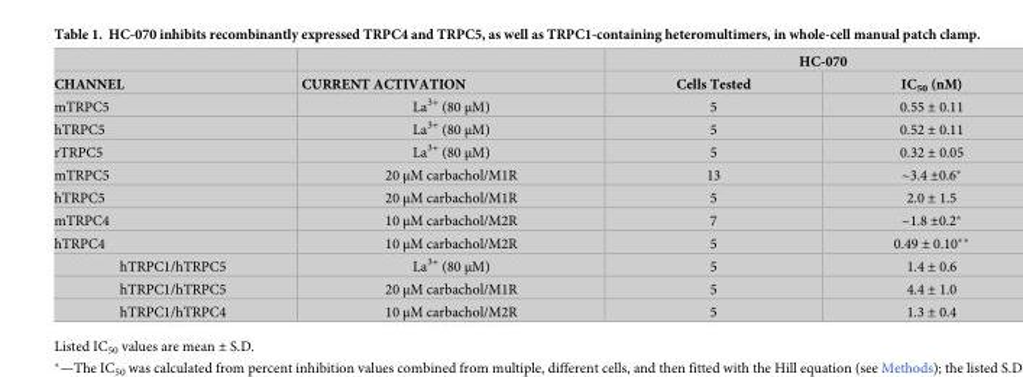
<table><thead><tr><td rowspan="2">CHANNEL</td><td rowspan="2">CURRENT ACTIVATION</td><td colspan="2">HC-070</td></tr><tr><td>Cells Tested</td><td>IC<sub>50</sub> (nM)</td></tr></thead><tbody><tr><td>mTRPC5</td><td>La<sup>3+</sup> (80 μM)</td><td>5</td><td>0.55 ± 0.11</td></tr><tr><td>hTRPC5</td><td>La<sup>3+</sup> (80 μM)</td><td>5</td><td>0.52 ± 0.11</td></tr><tr><td>rTRPC5</td><td>La<sup>3+</sup> (80 μM)</td><td>5</td><td>0.32 ± 0.05</td></tr><tr><td>mTRPC5</td><td>20 μM carbachol/M1R</td><td>13</td><td>~3.4 ±0.6*</td></tr><tr><td>hTRPC5</td><td>20 μM carbachol/M1R</td><td>5</td><td>2.0 ± 1.5</td></tr><tr><td>mTRPC4</td><td>10 μM carbachol/M2R</td><td>7</td><td>~1.8 ±0.2*</td></tr><tr><td>hTRPC4</td><td>10 μM carbachol/M2R</td><td>5</td><td>0.49 ± 0.10**</td></tr><tr><td>hTRPC1/hTRPC5</td><td>La<sup>3+</sup> (80 μM)</td><td>5</td><td>1.4 ± 0.6</td></tr><tr><td>hTRPC1/hTRPC5</td><td>20 μM carbachol/M1R</td><td>5</td><td>4.4 ± 1.0</td></tr><tr><td>hTRPC1/hTRPC4</td><td>10 μM carbachol/M2R</td><td>5</td><td>1.3 ± 0.4</td></tr></tbody></table>